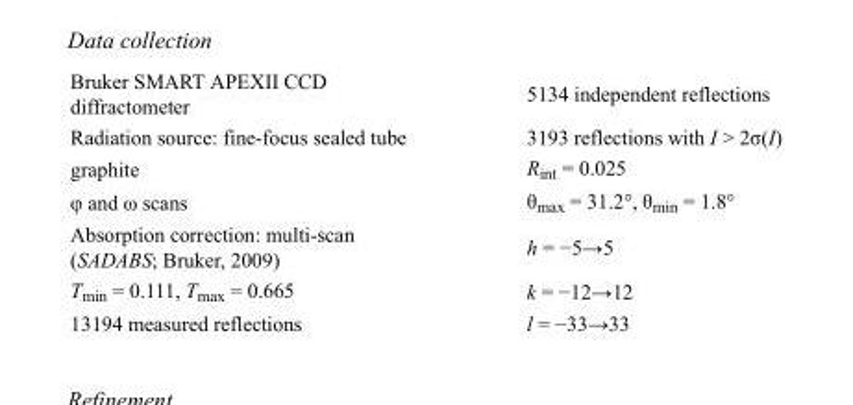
<table><tbody><tr><td>Bruker SMART APEXII CCD diffractometer</td><td>5134 independent reflections</td></tr><tr><td>Radiation source: fine-focus sealed tube</td><td>3193 reflections with I &gt; 2σ(I)</td></tr><tr><td>graphite</td><td>R<sub>int</sub> = 0.025</td></tr><tr><td>φ and ω scans</td><td>θ<sub>max</sub> = 31.2°, θ<sub>min</sub> = 1.8°</td></tr><tr><td>Absorption correction: multi-scan (SADABS; Bruker, 2009)</td><td>h = −5→5</td></tr><tr><td>T<sub>min</sub> = 0.111, T<sub>max</sub> = 0.665</td><td>k = −12→12</td></tr><tr><td>13194 measured reflections</td><td>l = −33→33</td></tr></tbody></table>